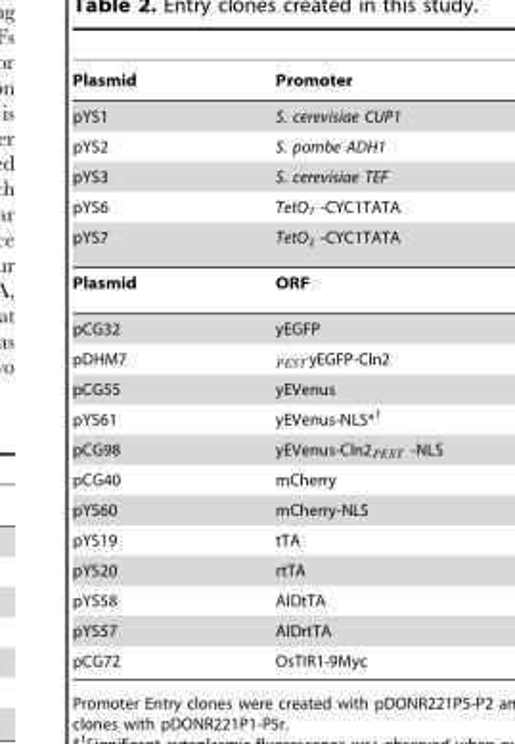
<table><thead><tr><td>Plasmid</td><td>Promoter</td></tr></thead><tbody><tr><td>pYS1</td><td>S. cerevisiae CUP1</td></tr><tr><td>pYS2</td><td>S. pombe ADH1</td></tr><tr><td>pYS3</td><td>S. cerevisiae TEF</td></tr><tr><td>pYS6</td><td>TetO<sub>7</sub> -CYC1TATA</td></tr><tr><td>pYS7</td><td>TetO<sub>2</sub> -CYC1TATA</td></tr><tr><td>Plasmid</td><td>ORF</td></tr><tr><td>pCG32</td><td>yEGFP</td></tr><tr><td>pDHM7</td><td>PESTyEGFP-Cln2</td></tr><tr><td>pCG55</td><td>yEVenus</td></tr><tr><td>pYS61</td><td>yEVenus-NLS*<sup>1</sup></td></tr><tr><td>pCG98</td><td>yEVenus-Cln2PEST -NLS</td></tr><tr><td>pCG40</td><td>mCherry</td></tr><tr><td>pYS60</td><td>mCherry-NLS</td></tr><tr><td>pYS19</td><td>tTA</td></tr><tr><td>pYS20</td><td>rtTA</td></tr><tr><td>pYS58</td><td>AIDtTA</td></tr><tr><td>pYS57</td><td>AIDrtTA</td></tr><tr><td>pCG72</td><td>OsTIR1-9Myc</td></tr></tbody></table>